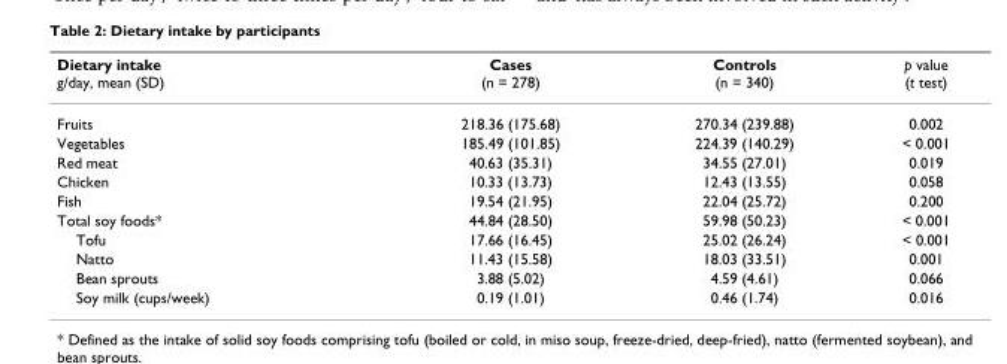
<table><thead><tr><td>Dietary intake g/day, mean (SD)</td><td>Cases (n = 278)</td><td>Controls (n = 340)</td><td>p value (t test)</td></tr></thead><tbody><tr><td>Fruits</td><td>218.36 (175.68)</td><td>270.34 (239.88)</td><td>0.002</td></tr><tr><td>Vegetables</td><td>185.49 (101.85)</td><td>224.39 (140.29)</td><td>&lt; 0.001</td></tr><tr><td>Red meat</td><td>40.63 (35.31)</td><td>34.55 (27.01)</td><td>0.019</td></tr><tr><td>Chicken</td><td>10.33 (13.73)</td><td>12.43 (13.55)</td><td>0.058</td></tr><tr><td>Fish</td><td>19.54 (21.95)</td><td>22.04 (25.72)</td><td>0.200</td></tr><tr><td>Total soy foods*</td><td>44.84 (28.50)</td><td>59.98 (50.23)</td><td>&lt; 0.001</td></tr><tr><td>Tofu</td><td>17.66 (16.45)</td><td>25.02 (26.24)</td><td>&lt; 0.001</td></tr><tr><td>Natto</td><td>11.43 (15.58)</td><td>18.03 (33.51)</td><td>0.001</td></tr><tr><td>Bean sprouts</td><td>3.88 (5.02)</td><td>4.59 (4.61)</td><td>0.066</td></tr><tr><td>Soy milk (cups/week)</td><td>0.19 (1.01)</td><td>0.46 (1.74)</td><td>0.016</td></tr></tbody></table>